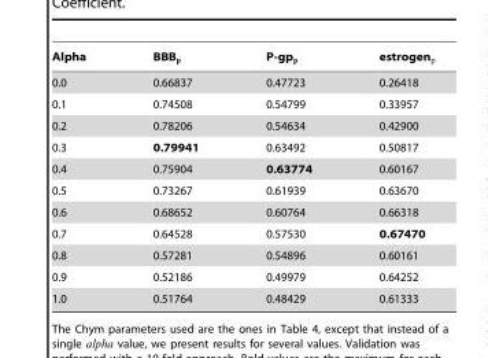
<table><thead><tr><td>Alpha</td><td>BBBp</td><td>P-gpp</td><td>estrogenp</td></tr></thead><tbody><tr><td>0.0</td><td>0.66837</td><td>0.47723</td><td>0.26418</td></tr><tr><td>0.1</td><td>0.74508</td><td>0.54799</td><td>0.33957</td></tr><tr><td>0.2</td><td>0.78206</td><td>0.54634</td><td>0.42900</td></tr><tr><td>0.3</td><td>0.79941</td><td>0.63492</td><td>0.50817</td></tr><tr><td>0.4</td><td>0.75904</td><td>0.63774</td><td>0.60167</td></tr><tr><td>0.5</td><td>0.73267</td><td>0.61939</td><td>0.63670</td></tr><tr><td>0.6</td><td>0.68652</td><td>0.60764</td><td>0.66318</td></tr><tr><td>0.7</td><td>0.64528</td><td>0.57530</td><td>0.67470</td></tr><tr><td>0.8</td><td>0.57281</td><td>0.54896</td><td>0.60161</td></tr><tr><td>0.9</td><td>0.52186</td><td>0.49979</td><td>0.64252</td></tr><tr><td>1.0</td><td>0.51764</td><td>0.48429</td><td>0.61333</td></tr></tbody></table>